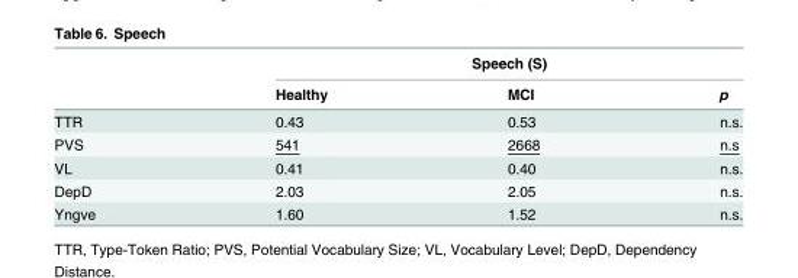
<table><thead><tr><td rowspan="2"></td><td colspan="3">Speech (S)</td></tr><tr><td>Healthy</td><td>MCI</td><td>p</td></tr></thead><tbody><tr><td>TTR</td><td>0.43</td><td>0.53</td><td>n.s.</td></tr><tr><td>PVS</td><td>541</td><td>2668</td><td>n.s</td></tr><tr><td>VL</td><td>0.41</td><td>0.40</td><td>n.s.</td></tr><tr><td>DepD</td><td>2.03</td><td>2.05</td><td>n.s.</td></tr><tr><td>Yngve</td><td>1.60</td><td>1.52</td><td>n.s.</td></tr></tbody></table>